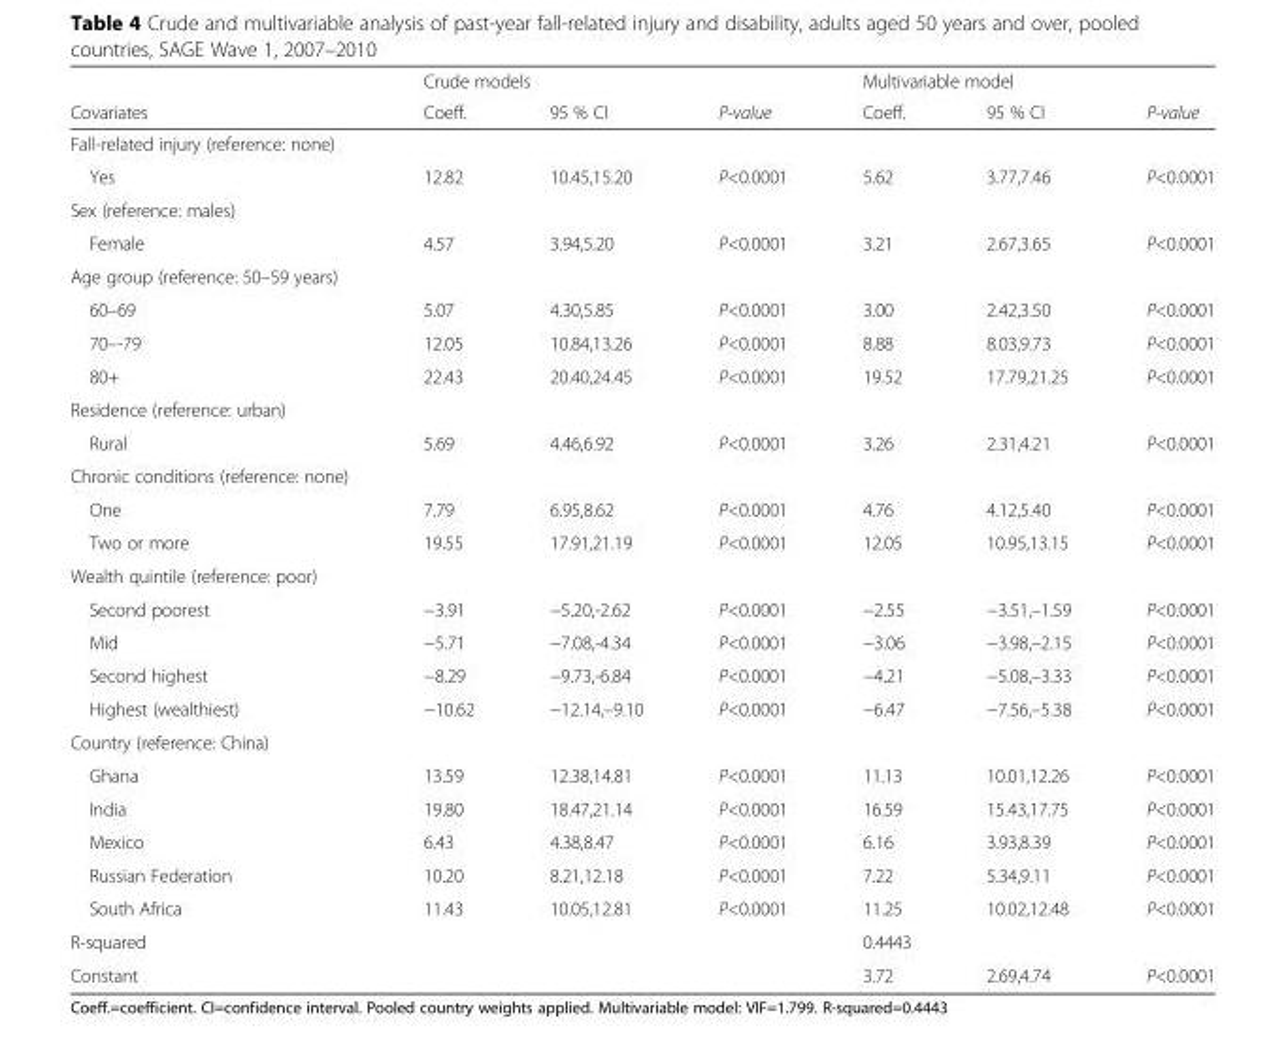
<table><thead><tr><td rowspan="2">Covariates</td><td colspan="3">Crude models</td><td colspan="3">Multivariable model</td></tr><tr><td>Coeff.</td><td>95 % CI</td><td>P-value</td><td>Coeff.</td><td>95 % CI</td><td>P-value</td></tr></thead><tbody><tr><td colspan="7">Fall-related injury (reference: none)</td></tr><tr><td>Yes</td><td>12.82</td><td>10.45,15.20</td><td>P&lt;0.0001</td><td>5.62</td><td>3.77,7.46</td><td>P&lt;0.0001</td></tr><tr><td colspan="7">Sex (reference: males)</td></tr><tr><td>Female</td><td>4.57</td><td>3.94,5.20</td><td>P&lt;0.0001</td><td>3.21</td><td>2.67,3.65</td><td>P&lt;0.0001</td></tr><tr><td colspan="7">Age group (reference: 50–59 years)</td></tr><tr><td>60–69</td><td>5.07</td><td>4.30,5.85</td><td>P&lt;0.0001</td><td>3.00</td><td>2.42,3.50</td><td>P&lt;0.0001</td></tr><tr><td>70–-79</td><td>12.05</td><td>10.84,13.26</td><td>P&lt;0.0001</td><td>8.88</td><td>8.03,9.73</td><td>P&lt;0.0001</td></tr><tr><td>80+</td><td>22.43</td><td>20.40,24.45</td><td>P&lt;0.0001</td><td>19.52</td><td>17.79,21.25</td><td>P&lt;0.0001</td></tr><tr><td colspan="7">Residence (reference: urban)</td></tr><tr><td>Rural</td><td>5.69</td><td>4.46,6.92</td><td>P&lt;0.0001</td><td>3.26</td><td>2.31,4.21</td><td>P&lt;0.0001</td></tr><tr><td colspan="7">Chronic conditions (reference: none)</td></tr><tr><td>One</td><td>7.79</td><td>6.95,8.62</td><td>P&lt;0.0001</td><td>4.76</td><td>4.12,5.40</td><td>P&lt;0.0001</td></tr><tr><td>Two or more</td><td>19.55</td><td>17.91,21.19</td><td>P&lt;0.0001</td><td>12.05</td><td>10.95,13.15</td><td>P&lt;0.0001</td></tr><tr><td colspan="7">Wealth quintile (reference: poor)</td></tr><tr><td>Second poorest</td><td>−3.91</td><td>−5.20,-2.62</td><td>P&lt;0.0001</td><td>−2.55</td><td>−3.51,–1.59</td><td>P&lt;0.0001</td></tr><tr><td>Mid</td><td>−5.71</td><td>−7.08,-4.34</td><td>P&lt;0.0001</td><td>−3.06</td><td>−3.98,–2.15</td><td>P&lt;0.0001</td></tr><tr><td>Second highest</td><td>−8.29</td><td>−9.73,-6.84</td><td>P&lt;0.0001</td><td>−4.21</td><td>−5.08,–3.33</td><td>P&lt;0.0001</td></tr><tr><td>Highest (wealthiest)</td><td>−10.62</td><td>−12.14,–9.10</td><td>P&lt;0.0001</td><td>−6.47</td><td>−7.56,–5.38</td><td>P&lt;0.0001</td></tr><tr><td colspan="7">Country (reference: China)</td></tr><tr><td>Ghana</td><td>13.59</td><td>12.38,14.81</td><td>P&lt;0.0001</td><td>11.13</td><td>10.01,12.26</td><td>P&lt;0.0001</td></tr><tr><td>India</td><td>19.80</td><td>18.47,21.14</td><td>P&lt;0.0001</td><td>16.59</td><td>15.43,17.75</td><td>P&lt;0.0001</td></tr><tr><td>Mexico</td><td>6.43</td><td>4.38,8.47</td><td>P&lt;0.0001</td><td>6.16</td><td>3.93,8.39</td><td>P&lt;0.0001</td></tr><tr><td>Russian Federation</td><td>10.20</td><td>8.21,12.18</td><td>P&lt;0.0001</td><td>7.22</td><td>5.34,9.11</td><td>P&lt;0.0001</td></tr><tr><td>South Africa</td><td>11.43</td><td>10.05,12.81</td><td>P&lt;0.0001</td><td>11.25</td><td>10.02,12.48</td><td>P&lt;0.0001</td></tr><tr><td>R-squared</td><td></td><td></td><td></td><td>0.4443</td><td></td><td></td></tr><tr><td>Constant</td><td></td><td></td><td></td><td>3.72</td><td>2.69,4.74</td><td>P&lt;0.0001</td></tr></tbody></table>